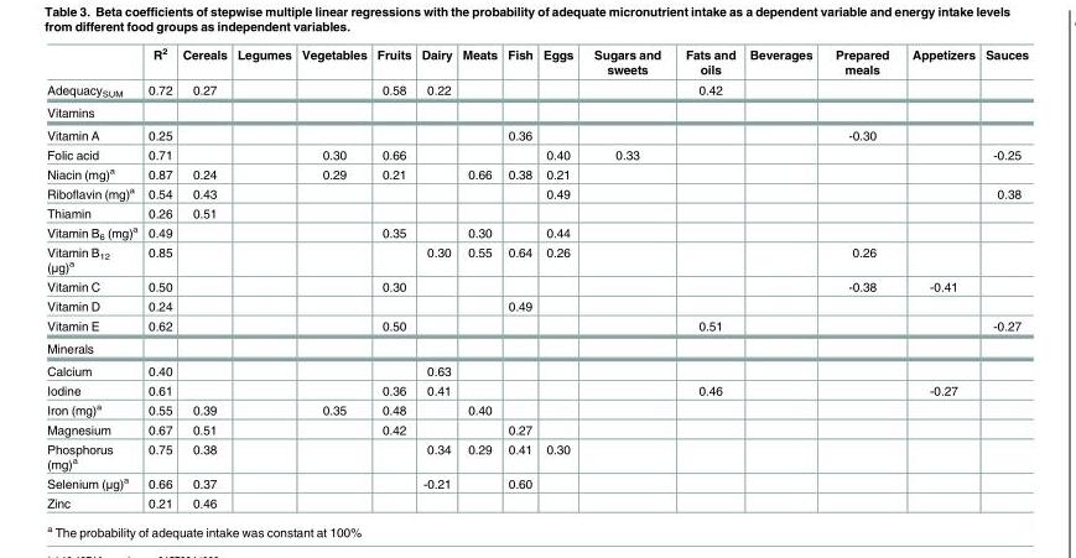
<table><thead><tr><td></td><td>R<sup>2</sup></td><td>Cereals</td><td>Legumes</td><td>Vegetables</td><td>Fruits</td><td>Dairy</td><td>Meats</td><td>Fish</td><td>Eggs</td><td>Sugars and sweets</td><td>Fats and oils</td><td>Beverages</td><td>Prepared meals</td><td>Appetizers</td><td>Sauces</td></tr></thead><tbody><tr><td>Adequacy<sub>SUM</sub></td><td>0.72</td><td>0.27</td><td></td><td></td><td>0.58</td><td>0.22</td><td></td><td></td><td></td><td></td><td>0.42</td><td></td><td></td><td></td><td></td></tr><tr><td colspan="16">Vitamins</td></tr><tr><td>Vitamin A</td><td>0.25</td><td></td><td></td><td></td><td></td><td></td><td></td><td>0.36</td><td></td><td></td><td></td><td></td><td>-0.30</td><td></td><td></td></tr><tr><td>Folic acid</td><td>0.71</td><td></td><td></td><td>0.30</td><td>0.66</td><td></td><td></td><td></td><td>0.40</td><td>0.33</td><td></td><td></td><td></td><td></td><td>-0.25</td></tr><tr><td>Niacin (mg)<sup>a</sup></td><td>0.87</td><td>0.24</td><td></td><td>0.29</td><td>0.21</td><td></td><td>0.66</td><td>0.38</td><td>0.21</td><td></td><td></td><td></td><td></td><td></td><td></td></tr><tr><td>Riboflavin (mg)<sup>a</sup></td><td>0.54</td><td>0.43</td><td></td><td></td><td></td><td></td><td></td><td></td><td>0.49</td><td></td><td></td><td></td><td></td><td></td><td>0.38</td></tr><tr><td>Thiamin</td><td>0.26</td><td>0.51</td><td></td><td></td><td></td><td></td><td></td><td></td><td></td><td></td><td></td><td></td><td></td><td></td><td></td></tr><tr><td>Vitamin B<sub>6</sub> (mg)<sup>a</sup></td><td>0.49</td><td></td><td></td><td></td><td>0.35</td><td></td><td>0.30</td><td></td><td>0.44</td><td></td><td></td><td></td><td></td><td></td><td></td></tr><tr><td>Vitamin B<sub>12</sub> (μg)<sup>a</sup></td><td>0.85</td><td></td><td></td><td></td><td></td><td>0.30</td><td>0.55</td><td>0.64</td><td>0.26</td><td></td><td></td><td></td><td>0.26</td><td></td><td></td></tr><tr><td>Vitamin C</td><td>0.50</td><td></td><td></td><td></td><td>0.30</td><td></td><td></td><td></td><td></td><td></td><td></td><td></td><td>-0.38</td><td>-0.41</td><td></td></tr><tr><td>Vitamin D</td><td>0.24</td><td></td><td></td><td></td><td></td><td></td><td></td><td>0.49</td><td></td><td></td><td></td><td></td><td></td><td></td><td></td></tr><tr><td>Vitamin E</td><td>0.62</td><td></td><td></td><td></td><td>0.50</td><td></td><td></td><td></td><td></td><td></td><td>0.51</td><td></td><td></td><td></td><td>-0.27</td></tr><tr><td colspan="16">Minerals</td></tr><tr><td>Calcium</td><td>0.40</td><td></td><td></td><td></td><td></td><td>0.63</td><td></td><td></td><td></td><td></td><td></td><td></td><td></td><td></td><td></td></tr><tr><td>Iodine</td><td>0.61</td><td></td><td></td><td></td><td>0.36</td><td>0.41</td><td></td><td></td><td></td><td></td><td>0.46</td><td></td><td></td><td>-0.27</td><td></td></tr><tr><td>Iron (mg)<sup>a</sup></td><td>0.55</td><td>0.39</td><td></td><td>0.35</td><td>0.48</td><td></td><td>0.40</td><td></td><td></td><td></td><td></td><td></td><td></td><td></td><td></td></tr><tr><td>Magnesium</td><td>0.67</td><td>0.51</td><td></td><td></td><td>0.42</td><td></td><td></td><td>0.27</td><td></td><td></td><td></td><td></td><td></td><td></td><td></td></tr><tr><td>Phosphorus (mg)<sup>a</sup></td><td>0.75</td><td>0.38</td><td></td><td></td><td></td><td>0.34</td><td>0.29</td><td>0.41</td><td>0.30</td><td></td><td></td><td></td><td></td><td></td><td></td></tr><tr><td>Selenium (μg)<sup>a</sup></td><td>0.66</td><td>0.37</td><td></td><td></td><td></td><td>-0.21</td><td></td><td>0.60</td><td></td><td></td><td></td><td></td><td></td><td></td><td></td></tr><tr><td>Zinc</td><td>0.21</td><td>0.46</td><td></td><td></td><td></td><td></td><td></td><td></td><td></td><td></td><td></td><td></td><td></td><td></td><td></td></tr></tbody></table>